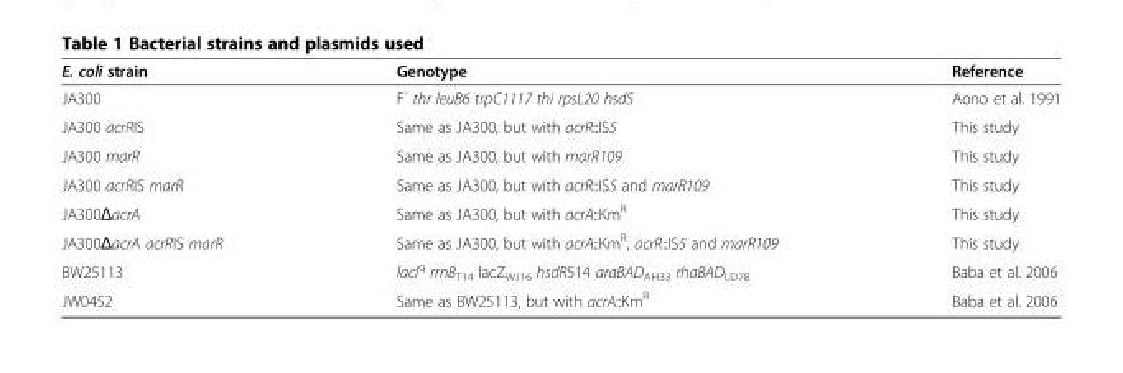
<table><thead><tr><td>E. coli strain</td><td>Genotype</td><td>Reference</td></tr></thead><tbody><tr><td>JA300</td><td>F<sup>-</sup> thr leuB6 trpC1117 thi rpsL20 hsdS</td><td>Aono et al. 1991</td></tr><tr><td>JA300 acrRIS</td><td>Same as JA300, but with acrR::IS5</td><td>This study</td></tr><tr><td>JA300 marR</td><td>Same as JA300, but with marR109</td><td>This study</td></tr><tr><td>JA300 acrRIS marR</td><td>Same as JA300, but with acrR::IS5 and marR109</td><td>This study</td></tr><tr><td>JA300ΔacrA</td><td>Same as JA300, but with acrA::Km<sup>R</sup></td><td>This study</td></tr><tr><td>JA300ΔacrA acrRIS marR</td><td>Same as JA300, but with acrA::Km<sup>R</sup>, acrR::IS5 and marR109</td><td>This study</td></tr><tr><td>BW25113</td><td>lacI<sup>q</sup> rrnB<sub>T14</sub> lacZ<sub>WJ16</sub> hsdR514 araBAD<sub>AH33</sub> rhaBAD<sub>LD78</sub></td><td>Baba et al. 2006</td></tr><tr><td>JW0452</td><td>Same as BW25113, but with acrA::Km<sup>R</sup></td><td>Baba et al. 2006</td></tr></tbody></table>